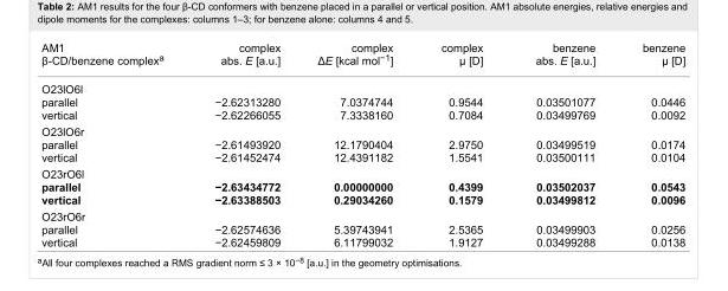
<table><tbody><tr><td>AM1 β-CD/benzene complex<sup>a</sup></td><td>complex abs. E [a.u.]</td><td>complex ΔE [kcal mol<sup>−1</sup>]</td><td>complex μ [D]</td><td>benzene abs. E [a.u.]</td><td>benzene μ [D]</td></tr><tr><td>O23lO6l parallel vertical</td><td>−2.62313280 −2.62266055</td><td>7.0374744 7.3338160</td><td>0.9544 0.7084</td><td>0.03501077 0.03499769</td><td>0.0446 0.0092</td></tr><tr><td>O23lO6r parallel vertical</td><td>−2.61493920 −2.61452474</td><td>12.1790404 12.4391182</td><td>2.9750 1.5541</td><td>0.03499519 0.03500111</td><td>0.0174 0.0104</td></tr><tr><td>O23rO6l parallel vertical</td><td>−2.63434772 −2.63388503</td><td>0.00000000 0.29034260</td><td>0.4399 0.1579</td><td>0.03502037 0.03499812</td><td>0.0543 0.0096</td></tr><tr><td>O23rO6r parallel vertical</td><td>−2.62574636 −2.62459809</td><td>5.39743941 6.11799032</td><td>2.5365 1.9127</td><td>0.03499903 0.03499288</td><td>0.0256 0.0138</td></tr></tbody></table>